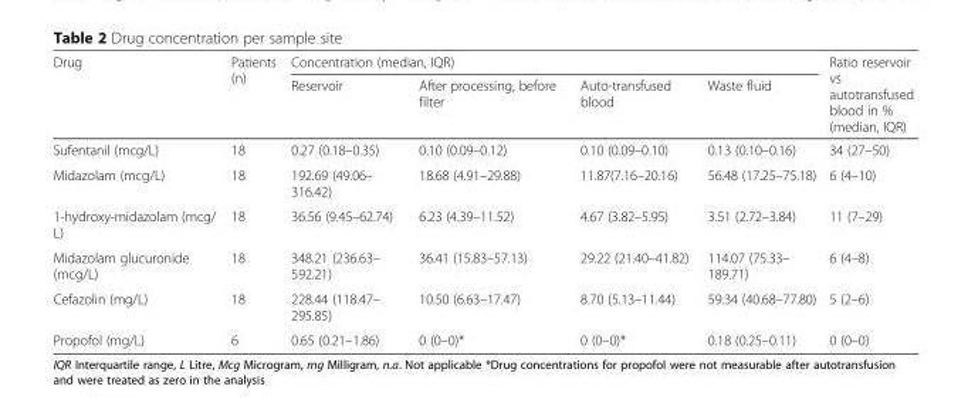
<table><thead><tr><td rowspan="2">Drug</td><td rowspan="2">Patients (n)</td><td colspan="4">Concentration (median, IQR)</td><td rowspan="2">Ratio reservoir vs autotransfused blood in % (median, IQR)</td></tr><tr><td>Reservoir</td><td>After processing, before filter</td><td>Auto-transfused blood</td><td>Waste fluid</td></tr></thead><tbody><tr><td>Sufentanil (mcg/L)</td><td>18</td><td>0.27 (0.18–0.35)</td><td>0.10 (0.09–0.12)</td><td>0.10 (0.09–0.10)</td><td>0.13 (0.10–0.16)</td><td>34 (27–50)</td></tr><tr><td>Midazolam (mcg/L)</td><td>18</td><td>192.69 (49.06– 316.42)</td><td>18.68 (4.91–29.88)</td><td>11.87(7.16–20.16)</td><td>56.48 (17.25–75.18)</td><td>6 (4–10)</td></tr><tr><td>1-hydroxy-midazolam (mcg/ L)</td><td>18</td><td>36.56 (9.45–62.74)</td><td>6.23 (4.39–11.52)</td><td>4.67 (3.82–5.95)</td><td>3.51 (2.72–3.84)</td><td>11 (7–29)</td></tr><tr><td>Midazolam glucuronide (mcg/L)</td><td>18</td><td>348.21 (236.63– 592.21)</td><td>36.41 (15.83–57.13)</td><td>29.22 (21.40–41.82)</td><td>114.07 (75.33– 189.71)</td><td>6 (4–8)</td></tr><tr><td>Cefazolin (mg/L)</td><td>18</td><td>228.44 (118.47– 295.85)</td><td>10.50 (6.63–17.47)</td><td>8.70 (5.13–11.44)</td><td>59.34 (40.68–77.80)</td><td>5 (2–6)</td></tr><tr><td>Propofol (mg/L)</td><td>6</td><td>0.65 (0.21–1.86)</td><td>0 (0–0)*</td><td>0 (0–0)*</td><td>0.18 (0.25–0.11)</td><td>0 (0–0)</td></tr></tbody></table>